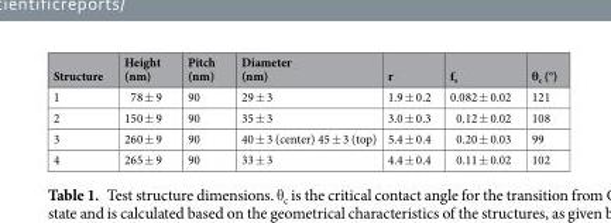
<table><thead><tr><td>Structure</td><td>Height (nm)</td><td>Pitch (nm)</td><td>Diameter (nm)</td><td>r</td><td>f<sub>s</sub></td><td>θ<sub>c</sub> (°)</td></tr></thead><tbody><tr><td>1</td><td>78 ± 9</td><td>90</td><td>29 ± 3</td><td>1.9 ± 0.2</td><td>0.082 ± 0.02</td><td>121</td></tr><tr><td>2</td><td>150 ± 9</td><td>90</td><td>35 ± 3</td><td>3.0 ± 0.3</td><td>0.12 ± 0.02</td><td>108</td></tr><tr><td>3</td><td>260 ± 9</td><td>90</td><td>40 ± 3 (center) 45 ± 3 (top)</td><td>5.4 ± 0.4</td><td>0.20 ± 0.03</td><td>99</td></tr><tr><td>4</td><td>265 ± 9</td><td>90</td><td>33 ± 3</td><td>4.4 ± 0.4</td><td>0.11 ± 0.02</td><td>102</td></tr></tbody></table>